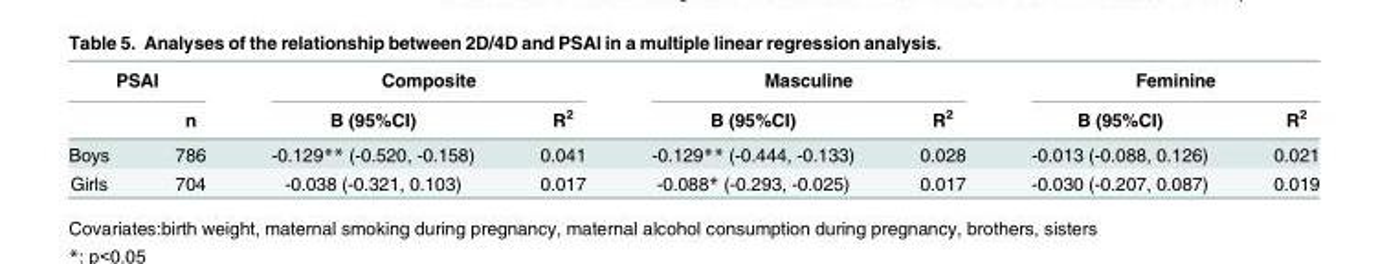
<table><thead><tr><td colspan="2">PSAI</td><td colspan="2">Composite</td><td colspan="2">Masculine</td><td colspan="2">Feminine</td></tr><tr><td></td><td>n</td><td>B (95%CI)</td><td>R<sup>2</sup></td><td>B (95%CI)</td><td>R<sup>2</sup></td><td>B (95%CI)</td><td>R<sup>2</sup></td></tr></thead><tbody><tr><td>Boys</td><td>786</td><td>-0.129** (-0.520, -0.158)</td><td>0.041</td><td>-0.129** (-0.444, -0.133)</td><td>0.028</td><td>-0.013 (-0.088, 0.126)</td><td>0.021</td></tr><tr><td>Girls</td><td>704</td><td>-0.038 (-0.321, 0.103)</td><td>0.017</td><td>-0.088* (-0.293, -0.025)</td><td>0.017</td><td>-0.030 (-0.207, 0.087)</td><td>0.019</td></tr></tbody></table>